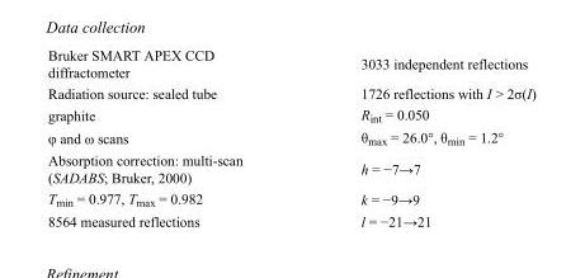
<table><tbody><tr><td>Bruker SMART APEX CCD diffractometer</td><td>3033 independent reflections</td></tr><tr><td>Radiation source: sealed tube</td><td>1726 reflections with I &gt; 2σ(I)</td></tr><tr><td>graphite</td><td>R<sub>int</sub> = 0.050</td></tr><tr><td>φ and ω scans</td><td>θ<sub>max</sub> = 26.0°, θ<sub>min</sub> = 1.2°</td></tr><tr><td>Absorption correction: multi-scan (SADABS; Bruker, 2000)</td><td>h = −7→7</td></tr><tr><td>T<sub>min</sub> = 0.977, T<sub>max</sub> = 0.982</td><td>k = −9→9</td></tr><tr><td>8564 measured reflections</td><td>l = −21→21</td></tr></tbody></table>